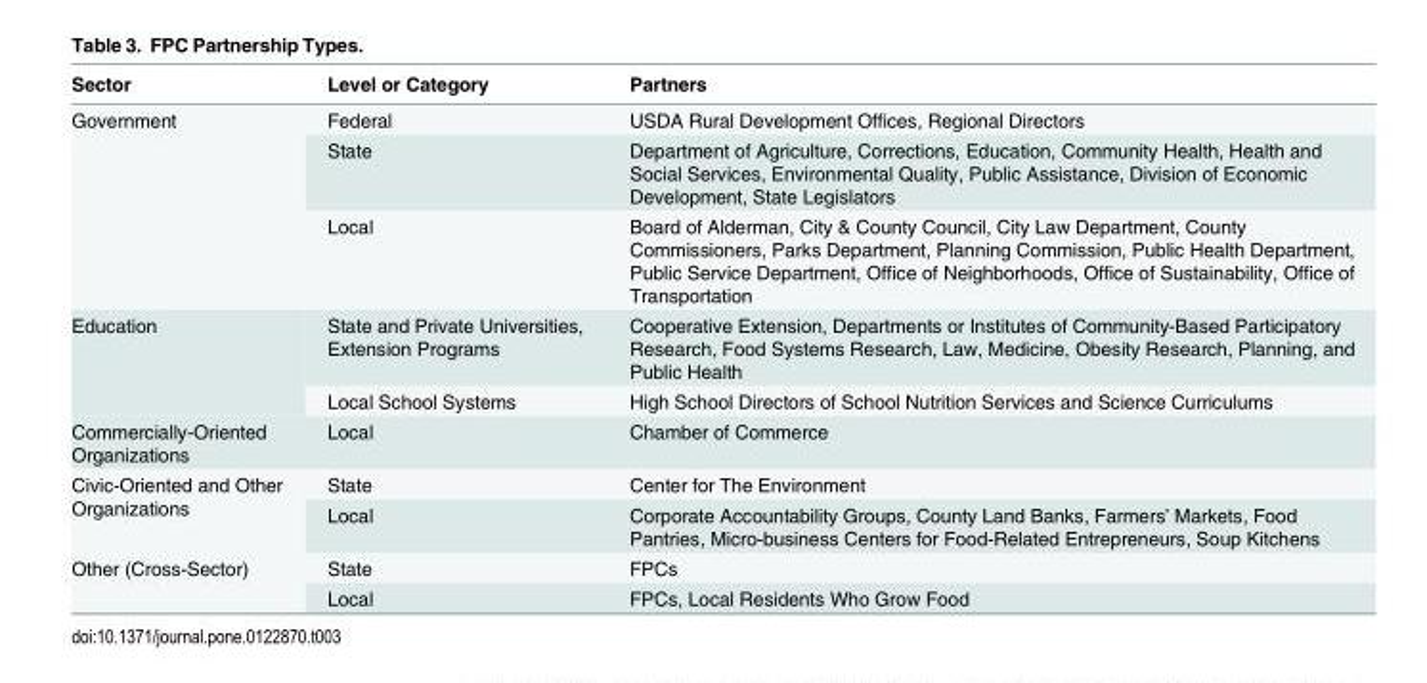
<table><thead><tr><td>Sector</td><td>Level or Category</td><td>Partners</td></tr></thead><tbody><tr><td rowspan="3">Government</td><td>Federal</td><td>USDA Rural Development Offices, Regional Directors</td></tr><tr><td>State</td><td>Department of Agriculture, Corrections, Education, Community Health, Health and Social Services, Environmental Quality, Public Assistance, Division of Economic Development, State Legislators</td></tr><tr><td>Local</td><td>Board of Alderman, City &amp; County Council, City Law Department, County Commissioners, Parks Department, Planning Commission, Public Health Department, Public Service Department, Office of Neighborhoods, Office of Sustainability, Office of Transportation</td></tr><tr><td rowspan="2">Education</td><td>State and Private Universities, Extension Programs</td><td>Cooperative Extension, Departments or Institutes of Community-Based Participatory Research, Food Systems Research, Law, Medicine, Obesity Research, Planning, and Public Health</td></tr><tr><td>Local School Systems</td><td>High School Directors of School Nutrition Services and Science Curriculums</td></tr><tr><td>Commercially-Oriented Organizations</td><td>Local</td><td>Chamber of Commerce</td></tr><tr><td rowspan="2">Civic-Oriented and Other Organizations</td><td>State</td><td>Center for The Environment</td></tr><tr><td>Local</td><td>Corporate Accountability Groups, County Land Banks, Farmers’ Markets, Food Pantries, Micro-business Centers for Food-Related Entrepreneurs, Soup Kitchens</td></tr><tr><td rowspan="2">Other (Cross-Sector)</td><td>State</td><td>FPCs</td></tr><tr><td>Local</td><td>FPCs, Local Residents Who Grow Food</td></tr></tbody></table>